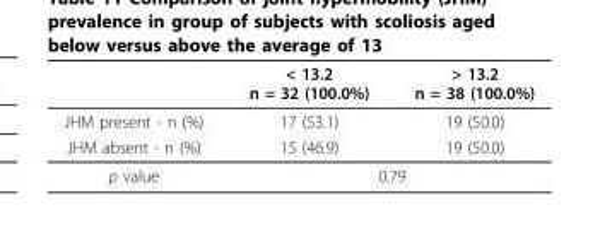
<table><thead><tr><td></td><td>&lt; 13.2 n = 32 (100.0%)</td><td>&gt; 13.2 n = 38 (100.0%)</td></tr></thead><tbody><tr><td>JHM present - n (%)</td><td>17 (53.1)</td><td>19 (50.0)</td></tr><tr><td>JHM absent - n (%)</td><td>15 (46.9)</td><td>19 (50.0)</td></tr><tr><td>p value</td><td colspan="2">0.79</td></tr></tbody></table>